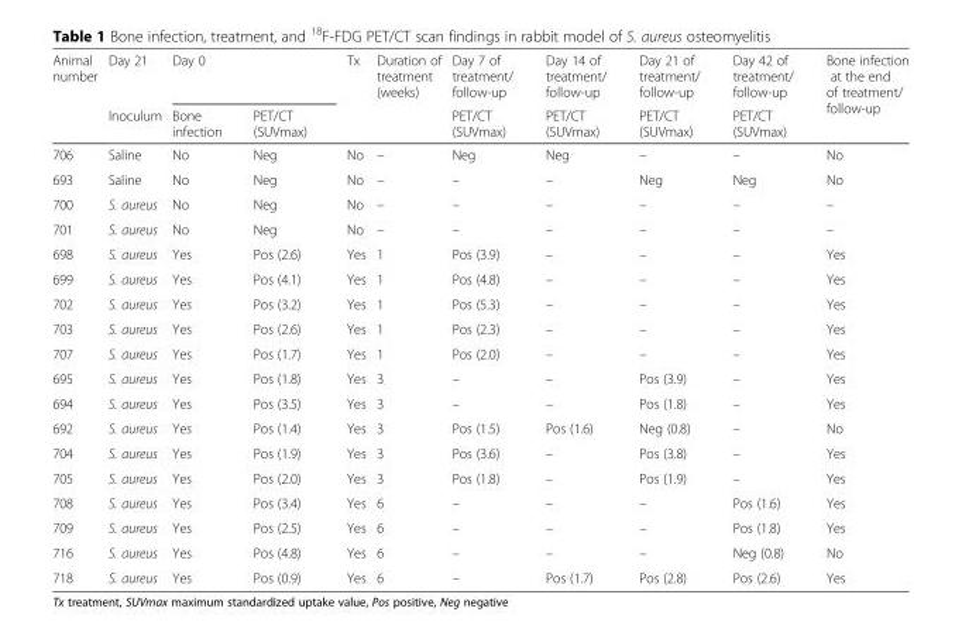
<table><thead><tr><td rowspan="2">Animal number</td><td rowspan="2">Day 21 Inoculum</td><td colspan="2">Day 0</td><td rowspan="2">Tx</td><td rowspan="2">Duration of treatment (weeks)</td><td rowspan="2">Day 7 of treatment/ follow-up PET/CT (SUVmax)</td><td rowspan="2">Day 14 of treatment/ follow-up PET/CT (SUVmax)</td><td rowspan="2">Day 21 of treatment/ follow-up PET/CT (SUVmax)</td><td rowspan="2">Day 42 of treatment/ follow-up PET/CT (SUVmax)</td><td rowspan="2">Bone infection at the end of treatment/ follow-up</td></tr><tr><td>Bone infection</td><td>PET/CT (SUVmax)</td></tr></thead><tbody><tr><td>706</td><td>Saline</td><td>No</td><td>Neg</td><td>No</td><td>–</td><td>Neg</td><td>Neg</td><td>–</td><td>–</td><td>No</td></tr><tr><td>693</td><td>Saline</td><td>No</td><td>Neg</td><td>No</td><td>–</td><td>–</td><td>–</td><td>Neg</td><td>Neg</td><td>No</td></tr><tr><td>700</td><td>S. aureus</td><td>No</td><td>Neg</td><td>No</td><td>–</td><td>–</td><td>–</td><td>–</td><td>–</td><td>–</td></tr><tr><td>701</td><td>S. aureus</td><td>No</td><td>Neg</td><td>No</td><td>–</td><td>–</td><td>–</td><td>–</td><td>–</td><td>–</td></tr><tr><td>698</td><td>S. aureus</td><td>Yes</td><td>Pos (2.6)</td><td>Yes</td><td>1</td><td>Pos (3.9)</td><td>–</td><td>–</td><td>–</td><td>Yes</td></tr><tr><td>699</td><td>S. aureus</td><td>Yes</td><td>Pos (4.1)</td><td>Yes</td><td>1</td><td>Pos (4.8)</td><td>–</td><td>–</td><td>–</td><td>Yes</td></tr><tr><td>702</td><td>S. aureus</td><td>Yes</td><td>Pos (3.2)</td><td>Yes</td><td>1</td><td>Pos (5.3)</td><td>–</td><td>–</td><td>–</td><td>Yes</td></tr><tr><td>703</td><td>S. aureus</td><td>Yes</td><td>Pos (2.6)</td><td>Yes</td><td>1</td><td>Pos (2.3)</td><td>–</td><td>–</td><td>–</td><td>Yes</td></tr><tr><td>707</td><td>S. aureus</td><td>Yes</td><td>Pos (1.7)</td><td>Yes</td><td>1</td><td>Pos (2.0)</td><td>–</td><td>–</td><td>–</td><td>Yes</td></tr><tr><td>695</td><td>S. aureus</td><td>Yes</td><td>Pos (1.8)</td><td>Yes</td><td>3</td><td>–</td><td>–</td><td>Pos (3.9)</td><td>–</td><td>Yes</td></tr><tr><td>694</td><td>S. aureus</td><td>Yes</td><td>Pos (3.5)</td><td>Yes</td><td>3</td><td>–</td><td>–</td><td>Pos (1.8)</td><td>–</td><td>Yes</td></tr><tr><td>692</td><td>S. aureus</td><td>Yes</td><td>Pos (1.4)</td><td>Yes</td><td>3</td><td>Pos (1.5)</td><td>Pos (1.6)</td><td>Neg (0.8)</td><td>–</td><td>No</td></tr><tr><td>704</td><td>S. aureus</td><td>Yes</td><td>Pos (1.9)</td><td>Yes</td><td>3</td><td>Pos (3.6)</td><td>–</td><td>Pos (3.8)</td><td>–</td><td>Yes</td></tr><tr><td>705</td><td>S. aureus</td><td>Yes</td><td>Pos (2.0)</td><td>Yes</td><td>3</td><td>Pos (1.8)</td><td>–</td><td>Pos (1.9)</td><td>–</td><td>Yes</td></tr><tr><td>708</td><td>S. aureus</td><td>Yes</td><td>Pos (3.4)</td><td>Yes</td><td>6</td><td>–</td><td>–</td><td>–</td><td>Pos (1.6)</td><td>Yes</td></tr><tr><td>709</td><td>S. aureus</td><td>Yes</td><td>Pos (2.5)</td><td>Yes</td><td>6</td><td>–</td><td>–</td><td>–</td><td>Pos (1.8)</td><td>Yes</td></tr><tr><td>716</td><td>S. aureus</td><td>Yes</td><td>Pos (4.8)</td><td>Yes</td><td>6</td><td>–</td><td>–</td><td>–</td><td>Neg (0.8)</td><td>No</td></tr><tr><td>718</td><td>S. aureus</td><td>Yes</td><td>Pos (0.9)</td><td>Yes</td><td>6</td><td>–</td><td>Pos (1.7)</td><td>Pos (2.8)</td><td>Pos (2.6)</td><td>Yes</td></tr></tbody></table>